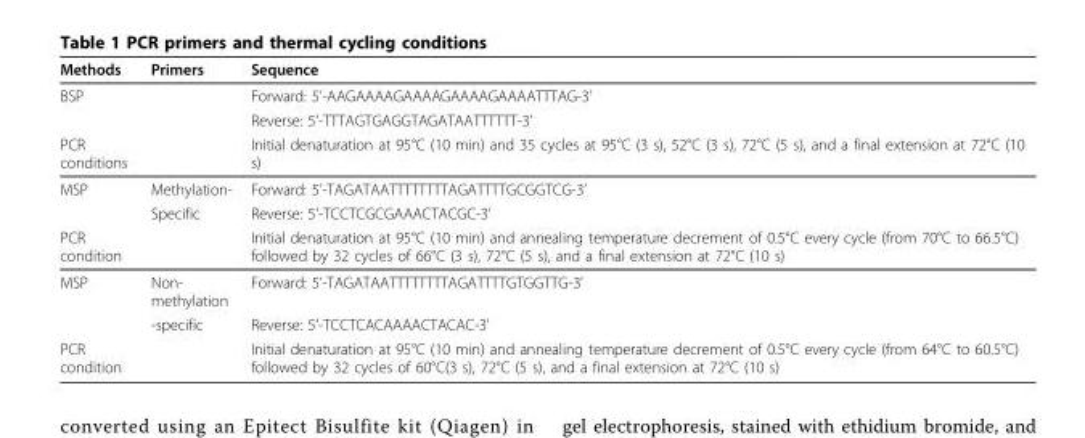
<table><thead><tr><td>Methods</td><td>Primers</td><td>Sequence</td></tr></thead><tbody><tr><td rowspan="2">BSP</td><td></td><td>Forward: 5’-AAGAAAAGAAAAGAAAAGAAAATTTAG-3’</td></tr><tr><td></td><td>Reverse: 5’-TTTAGTGAGGTAGATAATTTTTT-3’</td></tr><tr><td>PCR conditions</td><td></td><td>Initial denaturation at 95°C (10 min) and 35 cycles at 95°C (3 s), 52°C (3 s), 72°C (5 s), and a final extension at 72°C (10 s)</td></tr><tr><td rowspan="2">MSP</td><td>Methylation-</td><td>Forward: 5’-TAGATAATTTTTTTTAGATTTTGCGGTCG-3’</td></tr><tr><td>Specific</td><td>Reverse: 5’-TCCTCGCGAAACTACGC-3’</td></tr><tr><td>PCR condition</td><td></td><td>Initial denaturation at 95°C (10 min) and annealing temperature decrement of 0.5°C every cycle (from 70°C to 66.5°C) followed by 32 cycles of 66°C (3 s), 72°C (5 s), and a final extension at 72°C (10 s)</td></tr><tr><td rowspan="2">MSP</td><td>Non- methylation</td><td>Forward: 5’-TAGATAATTTTTTTTAGATTTTGTGGTTG-3’</td></tr><tr><td>-specific</td><td>Reverse: 5’-TCCTCACAAAACTACAC-3’</td></tr><tr><td>PCR condition</td><td></td><td>Initial denaturation at 95°C (10 min) and annealing temperature decrement of 0.5°C every cycle (from 64°C to 60.5°C) followed by 32 cycles of 60°C(3 s), 72°C (5 s), and a final extension at 72°C (10 s)</td></tr></tbody></table>